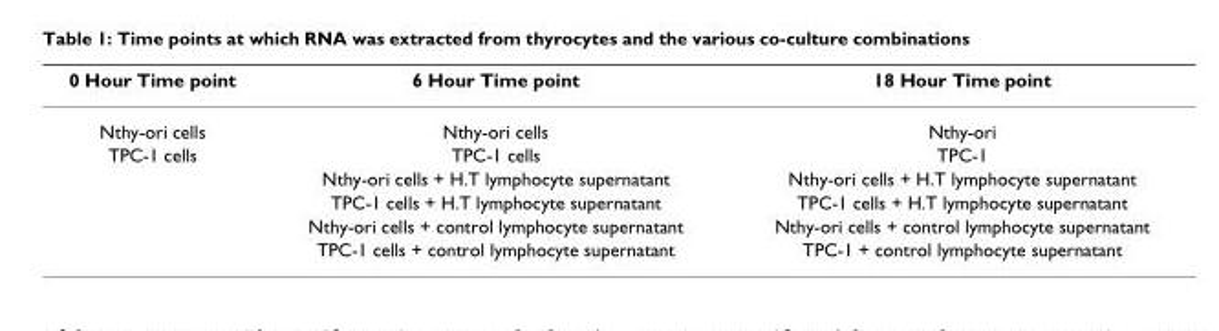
<table><thead><tr><td>0 Hour Time point</td><td>6 Hour Time point</td><td>18 Hour Time point</td></tr></thead><tbody><tr><td>Nthy-ori cells</td><td>Nthy-ori cells</td><td>Nthy-ori</td></tr><tr><td rowspan="5">TPC-1 cells</td><td>TPC-1 cells</td><td>TPC-1</td></tr><tr><td>Nthy-ori cells + H.T lymphocyte supernatant</td><td>Nthy-ori cells + H.T lymphocyte supernatant</td></tr><tr><td>TPC-1 cells + H.T lymphocyte supernatant</td><td>TPC-1 cells + H.T lymphocyte supernatant</td></tr><tr><td>Nthy-ori cells + control lymphocyte supernatant</td><td>Nthy-ori cells + control lymphocyte supernatant</td></tr><tr><td>TPC-1 cells + control lymphocyte supernatant</td><td>TPC-1 + control lymphocyte supernatant</td></tr></tbody></table>